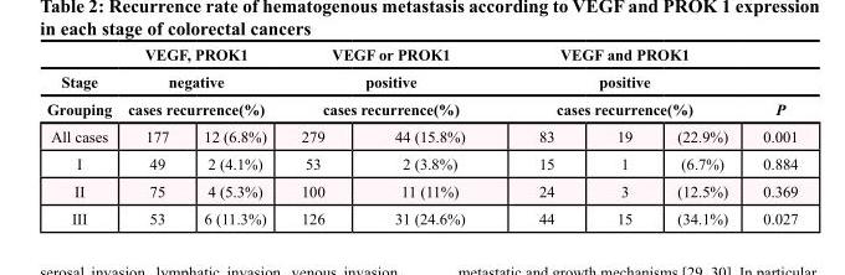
<table><thead><tr><td rowspan="4">Stage Grouping All cases</td><td rowspan="3" colspan="2">VEGF, PROK1 negative cases recurrence(%)</td><td rowspan="3" colspan="2">VEGF or PROK1 positive cases recurrence(%)</td><td rowspan="3" colspan="3">VEGF and PROK1 positive cases recurrence(%)</td><td rowspan="4">P 0.001</td></tr><tr></tr><tr></tr><tr><td>177</td><td>12 (6.8%)</td><td>279</td><td>44 (15.8%)</td><td>83</td><td>19</td><td>(22.9%)</td></tr></thead><tbody><tr><td>I</td><td>49</td><td>2 (4.1%)</td><td>53</td><td>2 (3.8%)</td><td>15</td><td>1</td><td>(6.7%)</td><td>0.884</td></tr><tr><td>II</td><td>75</td><td>4 (5.3%)</td><td>100</td><td>11 (11%)</td><td>24</td><td>3</td><td>(12.5%)</td><td>0.369</td></tr><tr><td>III</td><td>53</td><td>6 (11.3%)</td><td>126</td><td>31 (24.6%)</td><td>44</td><td>15</td><td>(34.1%)</td><td>0.027</td></tr></tbody></table>